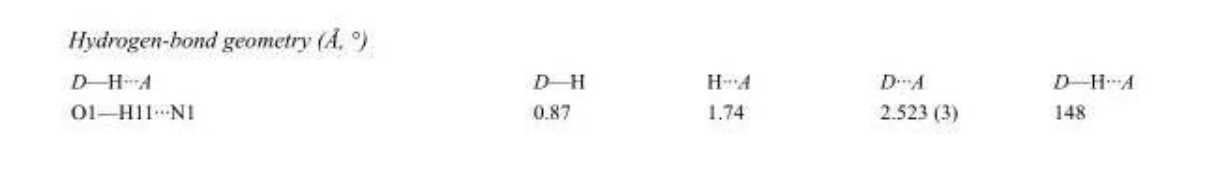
<table><tbody><tr><td>D—H···A</td><td>D—H</td><td>H···A</td><td>D···A</td><td>D—H···A</td></tr><tr><td>O1—H11···N1</td><td>0.87</td><td>1.74</td><td>2.523 (3)</td><td>148</td></tr></tbody></table>